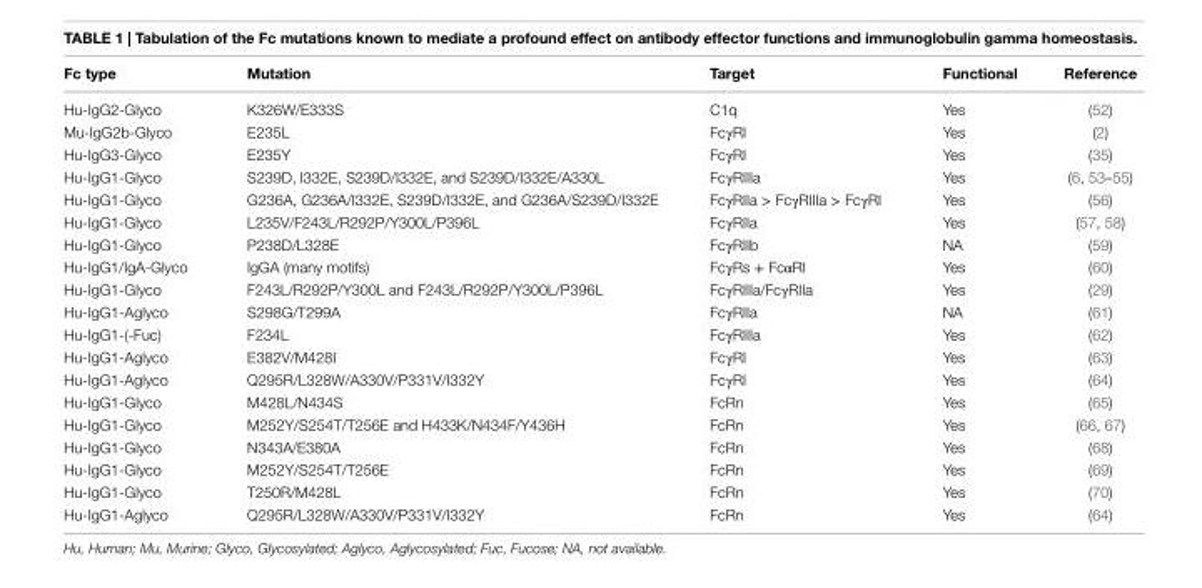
<table><thead><tr><td>Fc type</td><td>Mutation</td><td>Target</td><td>Functional</td><td>Reference</td></tr></thead><tbody><tr><td>Hu-IgG2-Glyco</td><td>K326W/E333S</td><td>C1q</td><td>Yes</td><td>(52)</td></tr><tr><td>Mu-IgG2b-Glyco</td><td>E235L</td><td>FcγRI</td><td>Yes</td><td>(2)</td></tr><tr><td>Hu-IgG3-Glyco</td><td>E235Y</td><td>FcγRI</td><td>Yes</td><td>(35)</td></tr><tr><td>Hu-IgG1-Glyco</td><td>S239D, I332E, S239D/I332E, and S239D/I332E/A330L</td><td>FcγRIIIa</td><td>Yes</td><td>(6, 53–55)</td></tr><tr><td>Hu-IgG1-Glyco</td><td>G236A, G236A/I332E, S239D/I332E, and G236A/S239D/I332E</td><td>FcγRIIa &gt; FcγRIIIa &gt; FcγRI</td><td>Yes</td><td>(56)</td></tr><tr><td>Hu-IgG1-Glyco</td><td>L235V/F243L/R292P/Y300L/P396L</td><td>FcγRIIa</td><td>Yes</td><td>(57, 58)</td></tr><tr><td>Hu-IgG1-Glyco</td><td>P238D/L328E</td><td>FcγRIIb</td><td>NA</td><td>(59)</td></tr><tr><td>Hu-IgG1/IgA-Glyco</td><td>IgGA (many motifs)</td><td>FcγRs + FcαRI</td><td>Yes</td><td>(60)</td></tr><tr><td>Hu-IgG1-Glyco</td><td>F243L/R292P/Y300L and F243L/R292P/Y300L/P396L</td><td>FcγRIIIa/FcγRIIa</td><td>Yes</td><td>(29)</td></tr><tr><td>Hu-IgG1-Aglyco</td><td>S298G/T299A</td><td>FcγRIIa</td><td>NA</td><td>(61)</td></tr><tr><td>Hu-IgG1-(-Fuc)</td><td>F234L</td><td>FcγRIIIa</td><td>Yes</td><td>(62)</td></tr><tr><td>Hu-IgG1-Aglyco</td><td>E382V/M428I</td><td>FcγRI</td><td>Yes</td><td>(63)</td></tr><tr><td>Hu-IgG1-Aglyco</td><td>Q295R/L328W/A330V/P331V/I332Y</td><td>FcγRI</td><td>Yes</td><td>(64)</td></tr><tr><td>Hu-IgG1-Glyco</td><td>M428L/N434S</td><td>FcRn</td><td>Yes</td><td>(65)</td></tr><tr><td>Hu-IgG1-Glyco</td><td>M252Y/S254T/T256E and H433K/N434F/Y436H</td><td>FcRn</td><td>Yes</td><td>(66, 67)</td></tr><tr><td>Hu-IgG1-Glyco</td><td>N343A/E380A</td><td>FcRn</td><td>Yes</td><td>(68)</td></tr><tr><td>Hu-IgG1-Glyco</td><td>M252Y/S254T/T256E</td><td>FcRn</td><td>Yes</td><td>(69)</td></tr><tr><td>Hu-IgG1-Glyco</td><td>T250R/M428L</td><td>FcRn</td><td>Yes</td><td>(70)</td></tr><tr><td>Hu-IgG1-Aglyco</td><td>Q295R/L328W/A330V/P331V/I332Y</td><td>FcRn</td><td>Yes</td><td>(64)</td></tr></tbody></table>